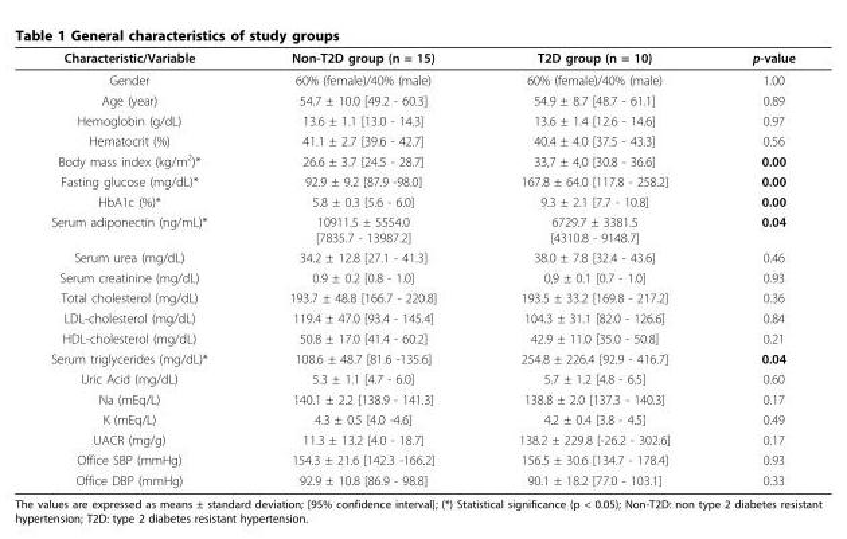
<table><thead><tr><td>Characteristic/Variable</td><td>Non-T2D group (n = 15)</td><td>T2D group (n = 10)</td><td>p-value</td></tr></thead><tbody><tr><td>Gender</td><td>60% (female)/40% (male)</td><td>60% (female)/40% (male)</td><td>1.00</td></tr><tr><td>Age (year)</td><td>54.7 ± 10.0 [49.2 - 60.3]</td><td>54.9 ± 8.7 [48.7 - 61.1]</td><td>0.89</td></tr><tr><td>Hemoglobin (g/dL)</td><td>13.6 ± 1.1 [13.0 - 14.3]</td><td>13.6 ± 1.4 [12.6 - 14.6]</td><td>0.97</td></tr><tr><td>Hematocrit (%)</td><td>41.1 ± 2.7 [39.6 - 42.7]</td><td>40.4 ± 4.0 [37.5 - 43.3]</td><td>0.56</td></tr><tr><td>Body mass index (kg/m<sup>2</sup>)*</td><td>26.6 ± 3.7 [24.5 - 28.7]</td><td>33,7 ± 4,0 [30.8 - 36.6]</td><td>0.00</td></tr><tr><td>Fasting glucose (mg/dL)*</td><td>92.9 ± 9.2 [87.9 -98.0]</td><td>167.8 ± 64.0 [117.8 - 258.2]</td><td>0.00</td></tr><tr><td>HbA1c (%)*</td><td>5.8 ± 0.3 [5.6 - 6.0]</td><td>9.3 ± 2.1 [7.7 - 10.8]</td><td>0.00</td></tr><tr><td>Serum adiponectin (ng/mL)*</td><td>10911.5 ± 5554.0 [7835.7 - 13987.2]</td><td>6729.7 ± 3381.5 [4310.8 - 9148.7]</td><td>0.04</td></tr><tr><td>Serum urea (mg/dL)</td><td>34.2 ± 12.8 [27.1 - 41.3]</td><td>38.0 ± 7.8 [32.4 - 43.6]</td><td>0.46</td></tr><tr><td>Serum creatinine (mg/dL)</td><td>0.9 ± 0.2 [0.8 - 1.0]</td><td>0,9 ± 0.1 [0.7 - 1.0]</td><td>0.93</td></tr><tr><td>Total cholesterol (mg/dL)</td><td>193.7 ± 48.8 [166.7 - 220.8]</td><td>193.5 ± 33.2 [169.8 - 217.2]</td><td>0.36</td></tr><tr><td>LDL-cholesterol (mg/dL)</td><td>119.4 ± 47.0 [93.4 - 145.4]</td><td>104.3 ± 31.1 [82.0 - 126.6]</td><td>0.84</td></tr><tr><td>HDL-cholesterol (mg/dL)</td><td>50.8 ± 17.0 [41.4 - 60.2]</td><td>42.9 ± 11.0 [35.0 - 50.8]</td><td>0.21</td></tr><tr><td>Serum triglycerides (mg/dL)*</td><td>108.6 ± 48.7 [81.6 -135.6]</td><td>254.8 ± 226.4 [92.9 - 416.7]</td><td>0.04</td></tr><tr><td>Uric Acid (mg/dL)</td><td>5.3 ± 1.1 [4.7 - 6.0]</td><td>5.7 ± 1.2 [4.8 - 6.5]</td><td>0.60</td></tr><tr><td>Na (mEq/L)</td><td>140.1 ± 2.2 [138.9 - 141.3]</td><td>138.8 ± 2.0 [137.3 - 140.3]</td><td>0.17</td></tr><tr><td>K (mEq/L)</td><td>4.3 ± 0.5 [4.0 -4.6]</td><td>4.2 ± 0.4 [3.8 - 4.5]</td><td>0.49</td></tr><tr><td>UACR (mg/g)</td><td>11.3 ± 13.2 [4.0 - 18.7]</td><td>138.2 ± 229.8 [-26.2 - 302.6]</td><td>0.17</td></tr><tr><td>Office SBP (mmHg)</td><td>154.3 ± 21.6 [142.3 -166.2]</td><td>156.5 ± 30.6 [134.7 - 178.4]</td><td>0.93</td></tr><tr><td>Office DBP (mmHg)</td><td>92.9 ± 10.8 [86.9 - 98.8]</td><td>90.1 ± 18.2 [77.0 - 103.1]</td><td>0.33</td></tr></tbody></table>